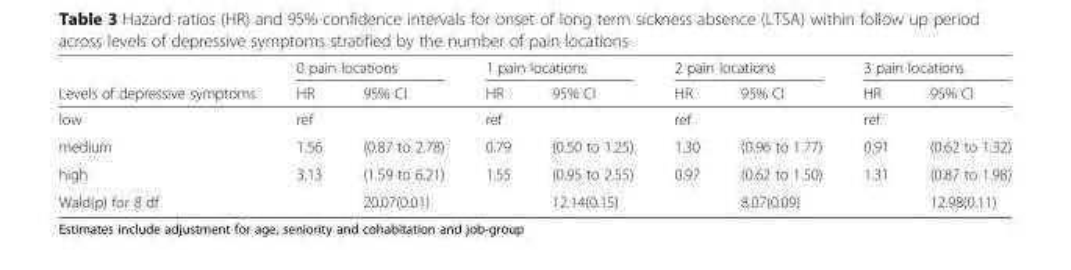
<table><thead><tr><td rowspan="2">Levels of depressive symptoms</td><td colspan="2">0 pain locations</td><td colspan="2">1 pain locations</td><td colspan="2">2 pain locations</td><td colspan="2">3 pain locations</td></tr><tr><td>HR</td><td>95% CI</td><td>HR</td><td>95% CI</td><td>HR</td><td>95% CI</td><td>HR</td><td>95% CI</td></tr></thead><tbody><tr><td>low</td><td>ref</td><td></td><td>ref</td><td></td><td>ref</td><td></td><td>ref</td><td></td></tr><tr><td>medium</td><td>1.56</td><td>(0.87 to 2.78)</td><td>0.79</td><td>(0.50 to 1.25)</td><td>1.30</td><td>(0.96 to 1.77)</td><td>0.91</td><td>(0.62 to 1.32)</td></tr><tr><td>high</td><td>3.13</td><td>(1.59 to 6.21)</td><td>1.55</td><td>(0.95 to 2.55)</td><td>0.97</td><td>(0.62 to 1.50)</td><td>1.31</td><td>(0.87 to 1.98)</td></tr><tr><td>Wald(p) for 8 df</td><td></td><td>20.07(0.01)</td><td></td><td>12.14(0.15)</td><td></td><td>8.07(0.09)</td><td></td><td>12.98(0.11)</td></tr></tbody></table>